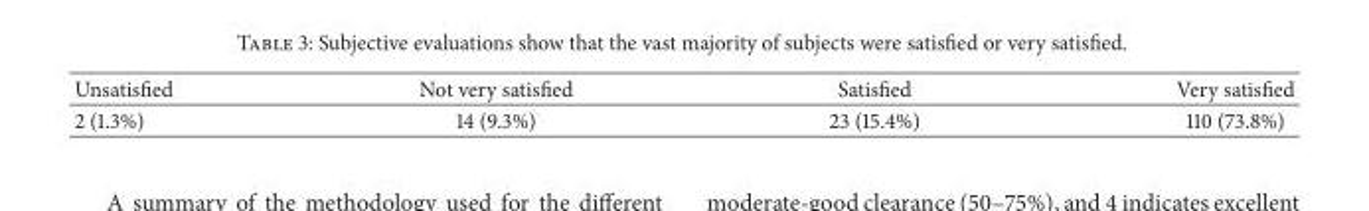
<table><thead><tr><td>Unsatisfied</td><td>Not very satisfied</td><td>Satisfied</td><td>Very satisfied</td></tr></thead><tbody><tr><td>2 (1.3%)</td><td>14 (9.3%)</td><td>23 (15.4%)</td><td>110 (73.8%)</td></tr></tbody></table>